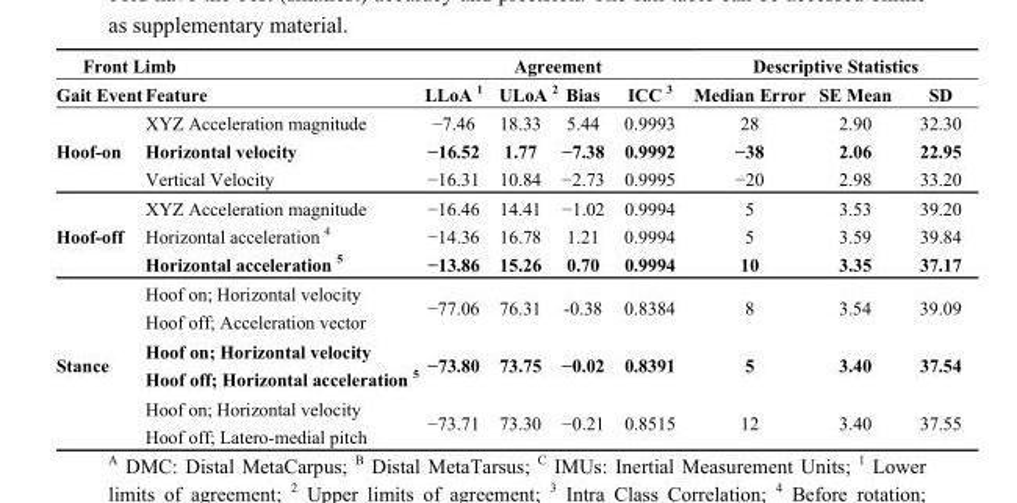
<table><thead><tr><td colspan="2">Front Limb</td><td colspan="4">Agreement</td><td colspan="3">Descriptive Statistics</td></tr><tr><td>Gait Event</td><td>Feature</td><td>LLoA <sup>1</sup></td><td>ULoA <sup>2</sup></td><td>Bias</td><td>ICC <sup>3</sup></td><td>Median Error</td><td>SE Mean</td><td>SD</td></tr></thead><tbody><tr><td rowspan="3">Hoof-on</td><td>XYZ Acceleration magnitude</td><td>−7.46</td><td>18.33</td><td>5.44</td><td>0.9993</td><td>28</td><td>2.90</td><td>32.30</td></tr><tr><td>Horizontal velocity</td><td>−16.52</td><td>1.77</td><td>−7.38</td><td>0.9992</td><td>−38</td><td>2.06</td><td>22.95</td></tr><tr><td>Vertical Velocity</td><td>−16.31</td><td>10.84</td><td>−2.73</td><td>0.9995</td><td>−20</td><td>2.98</td><td>33.20</td></tr><tr><td rowspan="3">Hoof-off</td><td>XYZ Acceleration magnitude</td><td>−16.46</td><td>14.41</td><td>−1.02</td><td>0.9994</td><td>5</td><td>3.53</td><td>39.20</td></tr><tr><td>Horizontal acceleration <sup>4</sup></td><td>−14.36</td><td>16.78</td><td>1.21</td><td>0.9994</td><td>5</td><td>3.59</td><td>39.84</td></tr><tr><td>Horizontal acceleration <sup>5</sup></td><td>−13.86</td><td>15.26</td><td>0.70</td><td>0.9994</td><td>10</td><td>3.35</td><td>37.17</td></tr><tr><td rowspan="3">Stance</td><td>Hoof on; Horizontal velocity Hoof off; Acceleration vector</td><td>−77.06</td><td>76.31</td><td>-0.38</td><td>0.8384</td><td>8</td><td>3.54</td><td>39.09</td></tr><tr><td>Hoof on; Horizontal velocity Hoof off; Horizontal acceleration <sup>5</sup></td><td>−73.80</td><td>73.75</td><td>−0.02</td><td>0.8391</td><td>5</td><td>3.40</td><td>37.54</td></tr><tr><td>Hoof on; Horizontal velocity Hoof off; Latero-medial pitch</td><td>−73.71</td><td>73.30</td><td>−0.21</td><td>0.8515</td><td>12</td><td>3.40</td><td>37.55</td></tr></tbody></table>